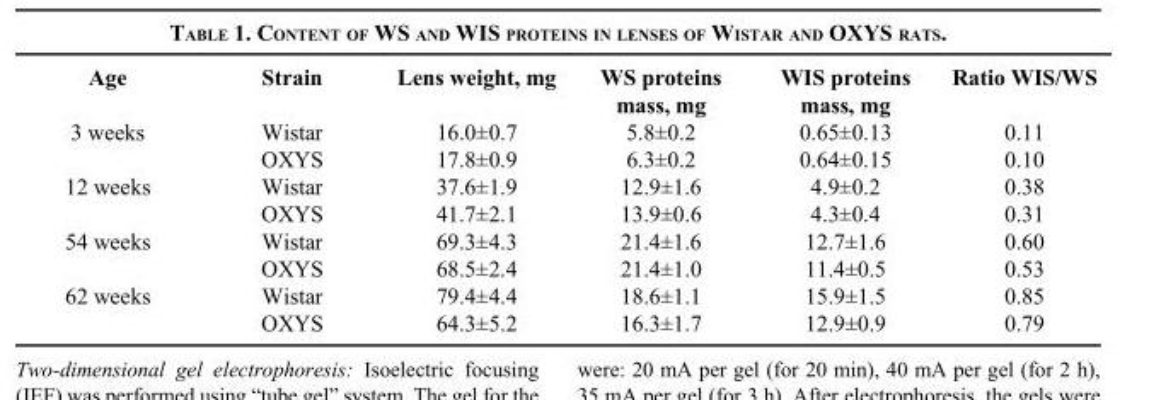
<table><thead><tr><td>Age</td><td>Strain</td><td>Lens weight, mg</td><td>WS proteins mass, mg</td><td>WIS proteins mass, mg</td><td>Ratio WIS/WS</td></tr></thead><tbody><tr><td rowspan="2">3 weeks</td><td>Wistar</td><td>16.0±0.7</td><td>5.8±0.2</td><td>0.65±0.13</td><td>0.11</td></tr><tr><td>OXYS</td><td>17.8±0.9</td><td>6.3±0.2</td><td>0.64±0.15</td><td>0.10</td></tr><tr><td rowspan="2">12 weeks</td><td>Wistar</td><td>37.6±1.9</td><td>12.9±1.6</td><td>4.9±0.2</td><td>0.38</td></tr><tr><td>OXYS</td><td>41.7±2.1</td><td>13.9±0.6</td><td>4.3±0.4</td><td>0.31</td></tr><tr><td rowspan="2">54 weeks</td><td>Wistar</td><td>69.3±4.3</td><td>21.4±1.6</td><td>12.7±1.6</td><td>0.60</td></tr><tr><td>OXYS</td><td>68.5±2.4</td><td>21.4±1.0</td><td>11.4±0.5</td><td>0.53</td></tr><tr><td rowspan="2">62 weeks</td><td>Wistar</td><td>79.4±4.4</td><td>18.6±1.1</td><td>15.9±1.5</td><td>0.85</td></tr><tr><td>OXYS</td><td>64.3±5.2</td><td>16.3±1.7</td><td>12.9±0.9</td><td>0.79</td></tr></tbody></table>